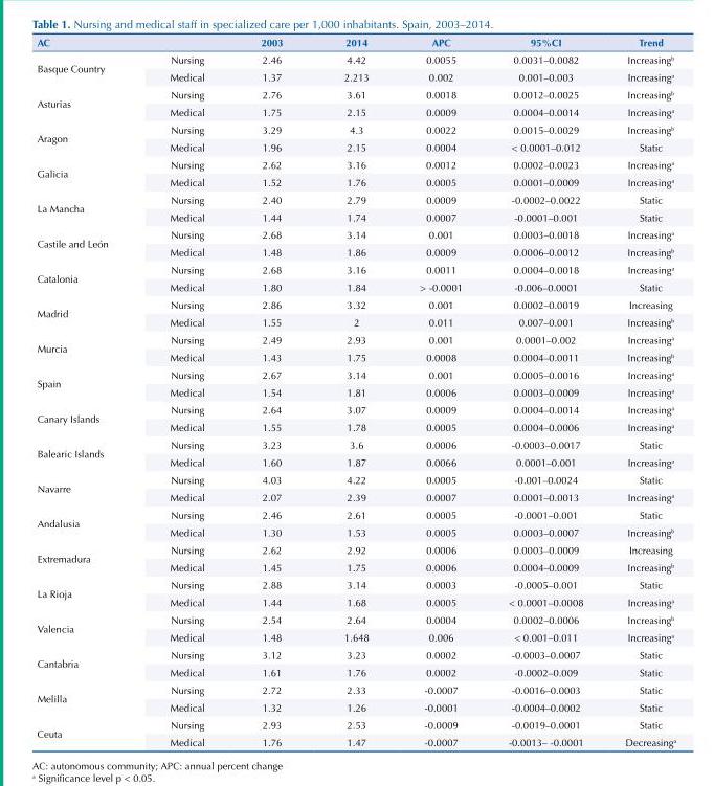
<table><thead><tr><td>AC</td><td></td><td>2003</td><td>2014</td><td>APC</td><td>95%CI</td><td>Trend</td></tr></thead><tbody><tr><td rowspan="2">Basque Country</td><td>Nursing</td><td>2.46</td><td>4.42</td><td>0.0055</td><td>0.0031–0.0082</td><td>Increasing<sup>b</sup></td></tr><tr><td>Medical</td><td>1.37</td><td>2.213</td><td>0.002</td><td>0.001–0.003</td><td>Increasing<sup>a</sup></td></tr><tr><td rowspan="2">Asturias</td><td>Nursing</td><td>2.76</td><td>3.61</td><td>0.0018</td><td>0.0012–0.0025</td><td>Increasing<sup>b</sup></td></tr><tr><td>Medical</td><td>1.75</td><td>2.15</td><td>0.0009</td><td>0.0004–0.0014</td><td>Increasing<sup>a</sup></td></tr><tr><td rowspan="2">Aragon</td><td>Nursing</td><td>3.29</td><td>4.3</td><td>0.0022</td><td>0.0015–0.0029</td><td>Increasing<sup>b</sup></td></tr><tr><td>Medical</td><td>1.96</td><td>2.15</td><td>0.0004</td><td>&lt; 0.0001–0.012</td><td>Static</td></tr><tr><td rowspan="2">Galicia</td><td>Nursing</td><td>2.62</td><td>3.16</td><td>0.0012</td><td>0.0002–0.0023</td><td>Increasing<sup>a</sup></td></tr><tr><td>Medical</td><td>1.52</td><td>1.76</td><td>0.0005</td><td>0.0001–0.0009</td><td>Increasing<sup>a</sup></td></tr><tr><td rowspan="2">La Mancha</td><td>Nursing</td><td>2.40</td><td>2.79</td><td>0.0009</td><td>-0.0002–0.0022</td><td>Static</td></tr><tr><td>Medical</td><td>1.44</td><td>1.74</td><td>0.0007</td><td>-0.0001–0.001</td><td>Static</td></tr><tr><td rowspan="2">Castile and León</td><td>Nursing</td><td>2.68</td><td>3.14</td><td>0.001</td><td>0.0003–0.0018</td><td>Increasing<sup>a</sup></td></tr><tr><td>Medical</td><td>1.48</td><td>1.86</td><td>0.0009</td><td>0.0006–0.0012</td><td>Increasing<sup>b</sup></td></tr><tr><td rowspan="2">Catalonia</td><td>Nursing</td><td>2.68</td><td>3.16</td><td>0.0011</td><td>0.0004–0.0018</td><td>Increasing<sup>a</sup></td></tr><tr><td>Medical</td><td>1.80</td><td>1.84</td><td>&gt; -0.0001</td><td>-0.006–0.0001</td><td>Static</td></tr><tr><td rowspan="2">Madrid</td><td>Nursing</td><td>2.86</td><td>3.32</td><td>0.001</td><td>0.0002–0.0019</td><td>Increasing</td></tr><tr><td>Medical</td><td>1.55</td><td>2</td><td>0.011</td><td>0.007–0.001</td><td>Increasing<sup>b</sup></td></tr><tr><td rowspan="2">Murcia</td><td>Nursing</td><td>2.49</td><td>2.93</td><td>0.001</td><td>0.0001–0.002</td><td>Increasing<sup>a</sup></td></tr><tr><td>Medical</td><td>1.43</td><td>1.75</td><td>0.0008</td><td>0.0004–0.0011</td><td>Increasing<sup>b</sup></td></tr><tr><td rowspan="2">Spain</td><td>Nursing</td><td>2.67</td><td>3.14</td><td>0.001</td><td>0.0005–0.0016</td><td>Increasing<sup>a</sup></td></tr><tr><td>Medical</td><td>1.54</td><td>1.81</td><td>0.0006</td><td>0.0003–0.0009</td><td>Increasing<sup>a</sup></td></tr><tr><td rowspan="2">Canary Islands</td><td>Nursing</td><td>2.64</td><td>3.07</td><td>0.0009</td><td>0.0004–0.0014</td><td>Increasing<sup>a</sup></td></tr><tr><td>Medical</td><td>1.55</td><td>1.78</td><td>0.0005</td><td>0.0004–0.0006</td><td>Increasing<sup>a</sup></td></tr><tr><td rowspan="2">Balearic Islands</td><td>Nursing</td><td>3.23</td><td>3.6</td><td>0.0006</td><td>-0.0003–0.0017</td><td>Static</td></tr><tr><td>Medical</td><td>1.60</td><td>1.87</td><td>0.0066</td><td>0.0001–0.001</td><td>Increasing<sup>a</sup></td></tr><tr><td rowspan="2">Navarre</td><td>Nursing</td><td>4.03</td><td>4.22</td><td>0.0005</td><td>-0.001–0.0024</td><td>Static</td></tr><tr><td>Medical</td><td>2.07</td><td>2.39</td><td>0.0007</td><td>0.0001–0.0013</td><td>Increasing<sup>a</sup></td></tr><tr><td rowspan="2">Andalusia</td><td>Nursing</td><td>2.46</td><td>2.61</td><td>0.0005</td><td>-0.0001–0.001</td><td>Static</td></tr><tr><td>Medical</td><td>1.30</td><td>1.53</td><td>0.0005</td><td>0.0003–0.0007</td><td>Increasing<sup>b</sup></td></tr><tr><td rowspan="2">Extremadura</td><td>Nursing</td><td>2.62</td><td>2.92</td><td>0.0006</td><td>0.0003–0.0009</td><td>Increasing</td></tr><tr><td>Medical</td><td>1.45</td><td>1.75</td><td>0.0006</td><td>0.0004–0.0009</td><td>Increasing<sup>b</sup></td></tr><tr><td rowspan="2">La Rioja</td><td>Nursing</td><td>2.88</td><td>3.14</td><td>0.0003</td><td>-0.0005–0.001</td><td>Static</td></tr><tr><td>Medical</td><td>1.44</td><td>1.68</td><td>0.0005</td><td>&lt; 0.0001–0.0008</td><td>Increasing<sup>a</sup></td></tr><tr><td rowspan="2">Valencia</td><td>Nursing</td><td>2.54</td><td>2.64</td><td>0.0004</td><td>0.0002–0.0006</td><td>Increasing<sup>b</sup></td></tr><tr><td>Medical</td><td>1.48</td><td>1.648</td><td>0.006</td><td>&lt; 0.001–0.011</td><td>Increasing<sup>a</sup></td></tr><tr><td rowspan="2">Cantabria</td><td>Nursing</td><td>3.12</td><td>3.23</td><td>0.0002</td><td>-0.0003–0.0007</td><td>Static</td></tr><tr><td>Medical</td><td>1.61</td><td>1.76</td><td>0.0002</td><td>-0.0002–0.009</td><td>Static</td></tr><tr><td rowspan="2">Melilla</td><td>Nursing</td><td>2.72</td><td>2.33</td><td>-0.0007</td><td>-0.0016–0.0003</td><td>Static</td></tr><tr><td>Medical</td><td>1.32</td><td>1.26</td><td>-0.0001</td><td>-0.0004–0.0002</td><td>Static</td></tr><tr><td rowspan="2">Ceuta</td><td>Nursing</td><td>2.93</td><td>2.53</td><td>-0.0009</td><td>-0.0019–0.0001</td><td>Static</td></tr><tr><td>Medical</td><td>1.76</td><td>1.47</td><td>-0.0007</td><td>-0.0013– -0.0001</td><td>Decreasing<sup>a</sup></td></tr></tbody></table>